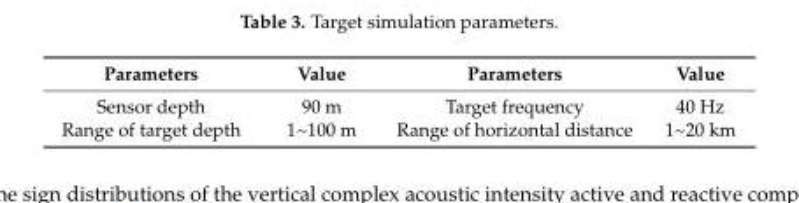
<table><thead><tr><td>Parameters</td><td>Value</td><td>Parameters</td><td>Value</td></tr></thead><tbody><tr><td>Sensor depth</td><td>90 m</td><td>Target frequency</td><td>40 Hz</td></tr><tr><td>Range of target depth</td><td>1~100 m</td><td>Range of horizontal distance</td><td>1~20 km</td></tr></tbody></table>